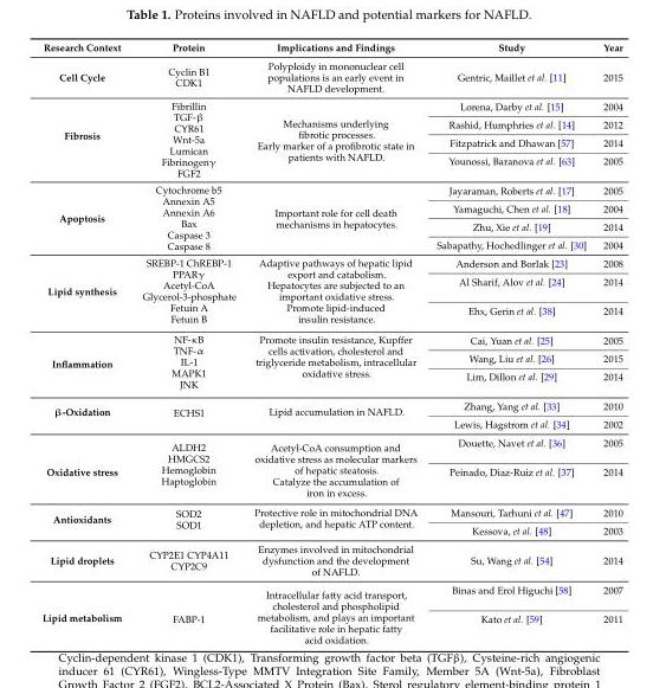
<table><thead><tr><td>Research Context</td><td>Protein</td><td>Implications and Findings</td><td>Study</td><td>Year</td></tr></thead><tbody><tr><td>Cell Cycle</td><td>Cyclin B1 CDK1</td><td>Polyploidy in mononuclear cell populations is an early event in NAFLD development.</td><td>Gentric, Maillet et al. [11]</td><td>2015</td></tr><tr><td rowspan="4">Fibrosis</td><td rowspan="4">Fibrillin TGF-β CYR61 Wnt-5a Lumican Fibrinogenγ FGF2</td><td rowspan="4">Mechanisms underlying fibrotic processes. Early marker of a profibrotic state in patients with NAFLD.</td><td>Lorena, Darby et al. [15]</td><td>2004</td></tr><tr><td>Rashid, Humphries et al. [14]</td><td>2012</td></tr><tr><td>Fitzpatrick and Dhawan [57]</td><td>2014</td></tr><tr><td>Younossi, Baranova et al. [63]</td><td>2005</td></tr><tr><td rowspan="4">Apoptosis</td><td rowspan="4">Cytochrome b5 Annexin A5 Annexin A6 Bax Caspase 3 Caspase 8</td><td rowspan="4">Important role for cell death mechanisms in hepatocytes.</td><td>Jayaraman, Roberts et al. [17]</td><td>2005</td></tr><tr><td>Yamaguchi, Chen et al. [18]</td><td>2004</td></tr><tr><td>Zhu, Xie et al. [19]</td><td>2014</td></tr><tr><td>Sabapathy, Hochedlinger et al. [30]</td><td>2004</td></tr><tr><td rowspan="3">Lipid synthesis</td><td rowspan="3">SREBP-1 ChREBP-1 PPARγ Acetyl-CoA Glycerol-3-phosphate Fetuin A Fetuin B</td><td rowspan="3">Adaptive pathways of hepatic lipid export and catabolism. Hepatocytes are subjected to an important oxidative stress. Promote lipid-induced insulin resistance.</td><td>Anderson and Borlak [23]</td><td>2008</td></tr><tr><td>Al Sharif, Alov et al. [24]</td><td>2014</td></tr><tr><td>Ehx, Gerin et al. [38]</td><td>2014</td></tr><tr><td rowspan="3">Inflammation</td><td rowspan="3">NF-κB TNF-α IL-1 MAPK1 JNK</td><td rowspan="3">Promote insulin resistance, Kupffer cells activation, cholesterol and triglyceride metabolism, intracellular oxidative stress.</td><td>Cai, Yuan et al. [25]</td><td>2005</td></tr><tr><td>Wang, Liu et al. [26]</td><td>2015</td></tr><tr><td>Lim, Dillon et al. [29]</td><td>2014</td></tr><tr><td rowspan="2">β-Oxidation</td><td rowspan="2">ECHS1</td><td rowspan="2">Lipid accumulation in NAFLD.</td><td>Zhang, Yang et al. [33]</td><td>2010</td></tr><tr><td>Lewis, Hagstrom et al. [34]</td><td>2002</td></tr><tr><td rowspan="2">Oxidative stress</td><td rowspan="2">ALDH2 HMGCS2 Hemoglobin Haptoglobin</td><td rowspan="2">Acetyl-CoA consumption and oxidative stress as molecular markers of hepatic steatosis. Catalyze the accumulation of iron in excess.</td><td>Douette, Navet et al. [36]</td><td>2005</td></tr><tr><td>Peinado, Diaz-Ruiz et al. [37]</td><td>2014</td></tr><tr><td rowspan="2">Antioxidants</td><td rowspan="2">SOD2 SOD1</td><td rowspan="2">Protective role in mitochondrial DNA depletion, and hepatic ATP content.</td><td>Mansouri, Tarhuni et al. [47]</td><td>2010</td></tr><tr><td>Kessova, et al. [48]</td><td>2003</td></tr><tr><td>Lipid droplets</td><td>CYP2E1 CYP4A11 CYP2C9</td><td>Enzymes involved in mitochondrial dysfunction and the development of NAFLD.</td><td>Su, Wang et al. [54]</td><td>2014</td></tr><tr><td rowspan="2">Lipid metabolism</td><td rowspan="2">FABP-1</td><td rowspan="2">Intracellular fatty acid transport, cholesterol and phospholipid metabolism, and plays an important facilitative role in hepatic fatty acid oxidation.</td><td>Binas and Erol Higuchi [58]</td><td>2007</td></tr><tr><td>Kato et al. [59]</td><td>2011</td></tr></tbody></table>